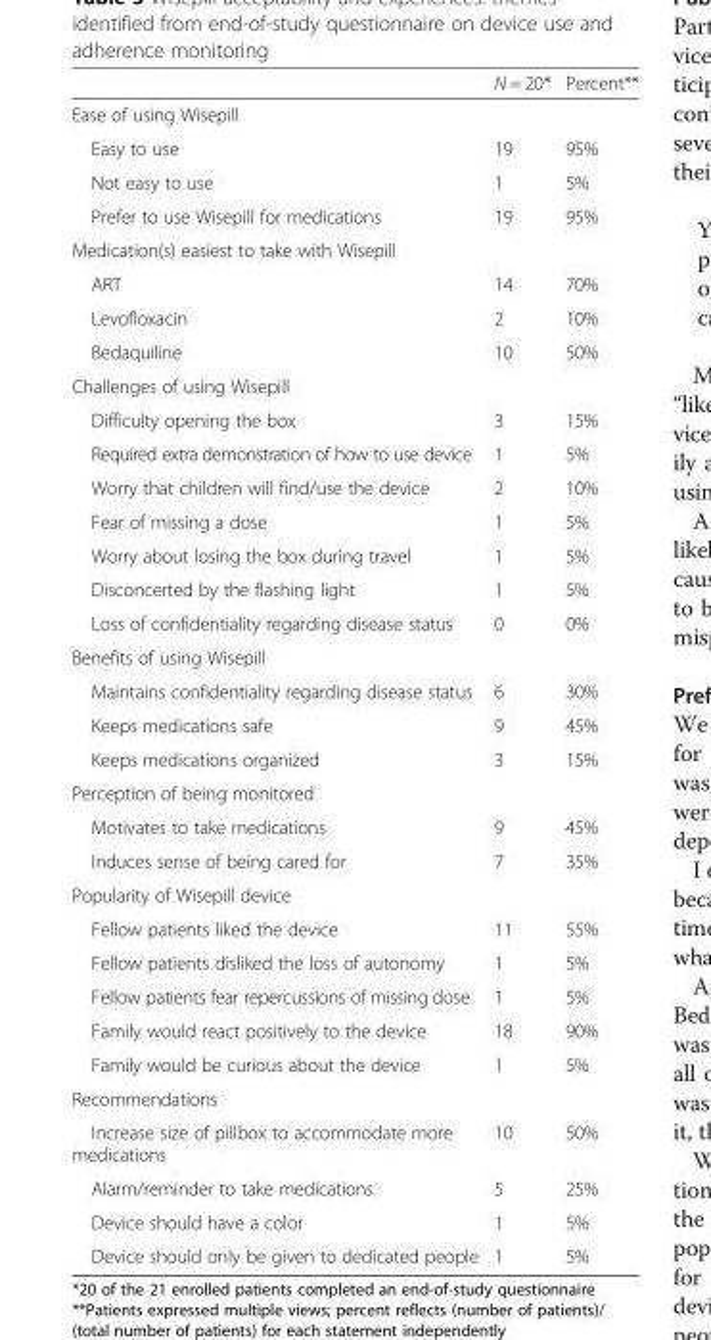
<table><thead><tr><td></td><td>N = 20*</td><td>Percent**</td></tr></thead><tbody><tr><td colspan="3">Ease of using Wisepill</td></tr><tr><td>Easy to use</td><td>19</td><td>95%</td></tr><tr><td>Not easy to use</td><td>1</td><td>5%</td></tr><tr><td>Prefer to use Wisepill for medications</td><td>19</td><td>95%</td></tr><tr><td colspan="3">Medication(s) easiest to take with Wisepill</td></tr><tr><td>ART</td><td>14</td><td>70%</td></tr><tr><td>Levofloxacin</td><td>2</td><td>10%</td></tr><tr><td>Bedaquiline</td><td>10</td><td>50%</td></tr><tr><td colspan="3">Challenges of using Wisepill</td></tr><tr><td>Difficulty opening the box</td><td>3</td><td>15%</td></tr><tr><td>Required extra demonstration of how to use device</td><td>1</td><td>5%</td></tr><tr><td>Worry that children will find/use the device</td><td>2</td><td>10%</td></tr><tr><td>Fear of missing a dose</td><td>1</td><td>5%</td></tr><tr><td>Worry about losing the box during travel</td><td>1</td><td>5%</td></tr><tr><td>Disconcerted by the flashing light</td><td>1</td><td>5%</td></tr><tr><td>Loss of confidentiality regarding disease status</td><td>0</td><td>0%</td></tr><tr><td colspan="3">Benefits of using Wisepill</td></tr><tr><td>Maintains confidentiality regarding disease status</td><td>6</td><td>30%</td></tr><tr><td>Keeps medications safe</td><td>9</td><td>45%</td></tr><tr><td>Keeps medications organized</td><td>3</td><td>15%</td></tr><tr><td colspan="3">Perception of being monitored</td></tr><tr><td>Motivates to take medications</td><td>9</td><td>45%</td></tr><tr><td>Induces sense of being cared for</td><td>7</td><td>35%</td></tr><tr><td colspan="3">Popularity of Wisepill device</td></tr><tr><td>Fellow patients liked the device</td><td>11</td><td>55%</td></tr><tr><td>Fellow patients disliked the loss of autonomy</td><td>1</td><td>5%</td></tr><tr><td>Fellow patients fear repercussions of missing dose</td><td>1</td><td>5%</td></tr><tr><td>Family would react positively to the device</td><td>18</td><td>90%</td></tr><tr><td>Family would be curious about the device</td><td>1</td><td>5%</td></tr><tr><td colspan="3">Recommendations</td></tr><tr><td>Increase size of pillbox to accommodate more medications</td><td>10</td><td>50%</td></tr><tr><td>Alarm/reminder to take medications</td><td>5</td><td>25%</td></tr><tr><td>Device should have a color</td><td>1</td><td>5%</td></tr><tr><td>Device should only be given to dedicated people</td><td>1</td><td>5%</td></tr></tbody></table>